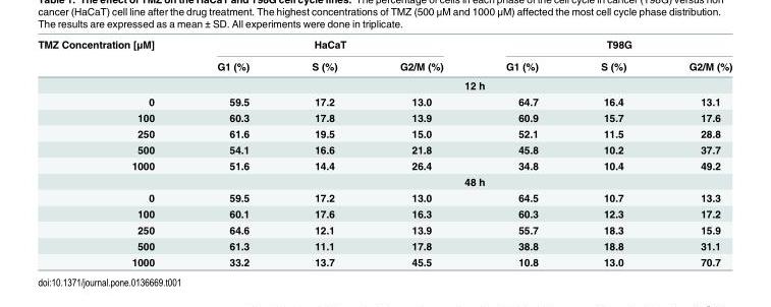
<table><thead><tr><td rowspan="2">TMZ Concentration [μM]</td><td colspan="3">HaCaT</td><td colspan="3">T98G</td></tr><tr><td>G1 (%)</td><td>S (%)</td><td>G2/M (%)</td><td>G1 (%)</td><td>S (%)</td><td>G2/M (%)</td></tr></thead><tbody><tr><td></td><td colspan="6">12 h</td></tr><tr><td>0</td><td>59.5</td><td>17.2</td><td>13.0</td><td>64.7</td><td>16.4</td><td>13.1</td></tr><tr><td>100</td><td>60.3</td><td>17.8</td><td>13.9</td><td>60.9</td><td>15.7</td><td>17.6</td></tr><tr><td>250</td><td>61.6</td><td>19.5</td><td>15.0</td><td>52.1</td><td>11.5</td><td>28.8</td></tr><tr><td>500</td><td>54.1</td><td>16.6</td><td>21.8</td><td>45.8</td><td>10.2</td><td>37.7</td></tr><tr><td rowspan="2">1000</td><td>51.6</td><td>14.4</td><td>26.4</td><td>34.8</td><td>10.4</td><td>49.2</td></tr><tr><td colspan="6">48 h</td></tr><tr><td>0</td><td>59.5</td><td>17.2</td><td>13.0</td><td>64.5</td><td>10.7</td><td>13.3</td></tr><tr><td>100</td><td>60.1</td><td>17.6</td><td>16.3</td><td>60.3</td><td>12.3</td><td>17.2</td></tr><tr><td>250</td><td>64.6</td><td>12.1</td><td>13.9</td><td>55.7</td><td>18.3</td><td>15.9</td></tr><tr><td>500</td><td>61.3</td><td>11.1</td><td>17.8</td><td>38.8</td><td>18.8</td><td>31.1</td></tr><tr><td>1000</td><td>33.2</td><td>13.7</td><td>45.5</td><td>10.8</td><td>13.0</td><td>70.7</td></tr></tbody></table>